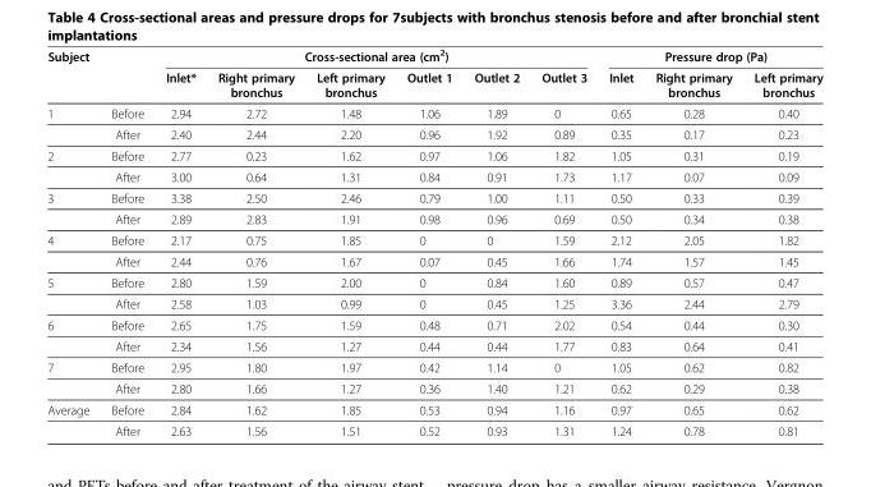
<table><thead><tr><td rowspan="2">Subject</td><td rowspan="2"></td><td colspan="6">Cross-sectional area (cm<sup>2</sup>)</td><td colspan="3">Pressure drop (Pa)</td></tr><tr><td>Inlet*</td><td>Right primary bronchus</td><td>Left primary bronchus</td><td>Outlet 1</td><td>Outlet 2</td><td>Outlet 3</td><td>Inlet</td><td>Right primary bronchus</td><td>Left primary bronchus</td></tr></thead><tbody><tr><td rowspan="2">1</td><td>Before</td><td>2.94</td><td>2.72</td><td>1.48</td><td>1.06</td><td>1.89</td><td>0</td><td>0.65</td><td>0.28</td><td>0.40</td></tr><tr><td>After</td><td>2.40</td><td>2.44</td><td>2.20</td><td>0.96</td><td>1.92</td><td>0.89</td><td>0.35</td><td>0.17</td><td>0.23</td></tr><tr><td rowspan="2">2</td><td>Before</td><td>2.77</td><td>0.23</td><td>1.62</td><td>0.97</td><td>1.06</td><td>1.82</td><td>1.05</td><td>0.31</td><td>0.19</td></tr><tr><td>After</td><td>3.00</td><td>0.64</td><td>1.31</td><td>0.84</td><td>0.91</td><td>1.73</td><td>1.17</td><td>0.07</td><td>0.09</td></tr><tr><td rowspan="2">3</td><td>Before</td><td>3.38</td><td>2.50</td><td>2.46</td><td>0.79</td><td>1.00</td><td>1.11</td><td>0.50</td><td>0.33</td><td>0.39</td></tr><tr><td>After</td><td>2.89</td><td>2.83</td><td>1.91</td><td>0.98</td><td>0.96</td><td>0.69</td><td>0.50</td><td>0.34</td><td>0.38</td></tr><tr><td rowspan="2">4</td><td>Before</td><td>2.17</td><td>0.75</td><td>1.85</td><td>0</td><td>0</td><td>1.59</td><td>2.12</td><td>2.05</td><td>1.82</td></tr><tr><td>After</td><td>2.44</td><td>0.76</td><td>1.67</td><td>0.07</td><td>0.45</td><td>1.66</td><td>1.74</td><td>1.57</td><td>1.45</td></tr><tr><td rowspan="2">5</td><td>Before</td><td>2.80</td><td>1.59</td><td>2.00</td><td>0</td><td>0.84</td><td>1.60</td><td>0.89</td><td>0.57</td><td>0.47</td></tr><tr><td>After</td><td>2.58</td><td>1.03</td><td>0.99</td><td>0</td><td>0.45</td><td>1.25</td><td>3.36</td><td>2.44</td><td>2.79</td></tr><tr><td rowspan="2">6</td><td>Before</td><td>2.65</td><td>1.75</td><td>1.59</td><td>0.48</td><td>0.71</td><td>2.02</td><td>0.54</td><td>0.44</td><td>0.30</td></tr><tr><td>After</td><td>2.34</td><td>1.56</td><td>1.27</td><td>0.44</td><td>0.44</td><td>1.77</td><td>0.83</td><td>0.64</td><td>0.41</td></tr><tr><td rowspan="2">7</td><td>Before</td><td>2.95</td><td>1.80</td><td>1.97</td><td>0.42</td><td>1.14</td><td>0</td><td>1.05</td><td>0.62</td><td>0.82</td></tr><tr><td>After</td><td>2.80</td><td>1.66</td><td>1.27</td><td>0.36</td><td>1.40</td><td>1.21</td><td>0.62</td><td>0.29</td><td>0.38</td></tr><tr><td rowspan="2">Average</td><td>Before</td><td>2.84</td><td>1.62</td><td>1.85</td><td>0.53</td><td>0.94</td><td>1.16</td><td>0.97</td><td>0.65</td><td>0.62</td></tr><tr><td>After</td><td>2.63</td><td>1.56</td><td>1.51</td><td>0.52</td><td>0.93</td><td>1.31</td><td>1.24</td><td>0.78</td><td>0.81</td></tr></tbody></table>